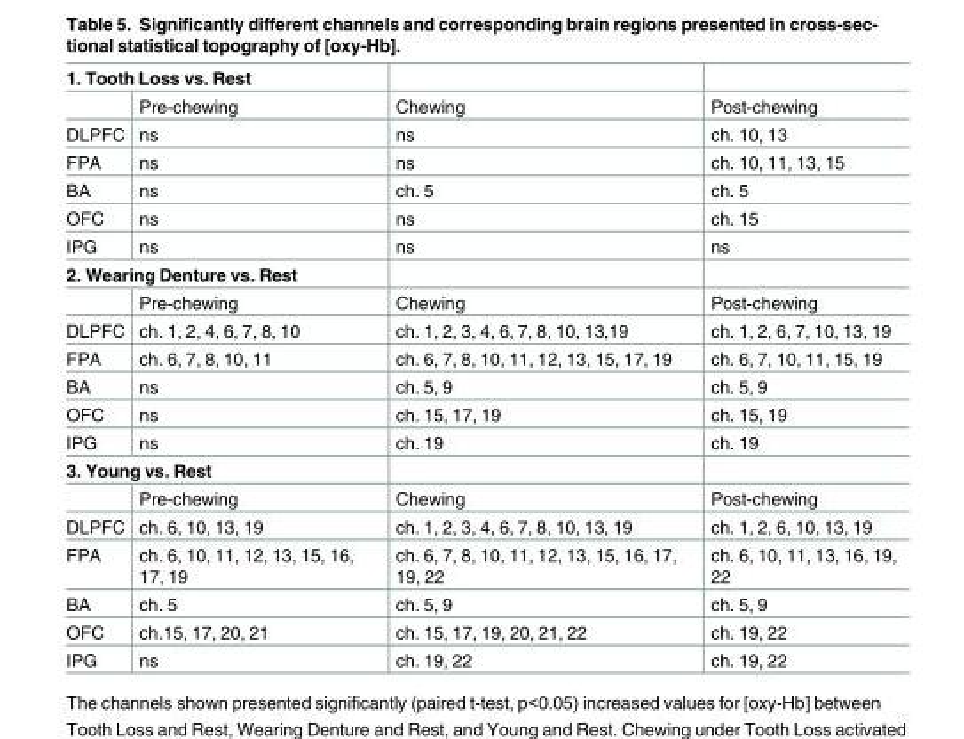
<table><tbody><tr><td colspan="4">1. Tooth Loss vs. Rest</td></tr><tr><td></td><td>Pre-chewing</td><td>Chewing</td><td>Post-chewing</td></tr><tr><td>DLPFC</td><td>ns</td><td>ns</td><td>ch. 10, 13</td></tr><tr><td>FPA</td><td>ns</td><td>ns</td><td>ch. 10, 11, 13, 15</td></tr><tr><td>BA</td><td>ns</td><td>ch. 5</td><td>ch. 5</td></tr><tr><td>OFC</td><td>ns</td><td>ns</td><td>ch. 15</td></tr><tr><td>IPG</td><td>ns</td><td>ns</td><td>ns</td></tr><tr><td colspan="4">2. Wearing Denture vs. Rest</td></tr><tr><td></td><td>Pre-chewing</td><td>Chewing</td><td>Post-chewing</td></tr><tr><td>DLPFC</td><td>ch. 1, 2, 4, 6, 7, 8, 10</td><td>ch. 1, 2, 3, 4, 6, 7, 8, 10, 13,19</td><td>ch. 1, 2, 6, 7, 10, 13, 19</td></tr><tr><td>FPA</td><td>ch. 6, 7, 8, 10, 11</td><td>ch. 6, 7, 8, 10, 11, 12, 13, 15, 17, 19</td><td>ch. 6, 7, 10, 11, 15, 19</td></tr><tr><td>BA</td><td>ns</td><td>ch. 5, 9</td><td>ch. 5, 9</td></tr><tr><td>OFC</td><td>ns</td><td>ch. 15, 17, 19</td><td>ch. 15, 19</td></tr><tr><td>IPG</td><td>ns</td><td>ch. 19</td><td>ch. 19</td></tr><tr><td colspan="4">3. Young vs. Rest</td></tr><tr><td></td><td>Pre-chewing</td><td>Chewing</td><td>Post-chewing</td></tr><tr><td>DLPFC</td><td>ch. 6, 10, 13, 19</td><td>ch. 1, 2, 3, 4, 6, 7, 8, 10, 13, 19</td><td>ch. 1, 2, 6, 10, 13, 19</td></tr><tr><td>FPA</td><td>ch. 6, 10, 11, 12, 13, 15, 16, 17, 19</td><td>ch. 6, 7, 8, 10, 11, 12, 13, 15, 16, 17, 19, 22</td><td>ch. 6, 10, 11, 13, 16, 19, 22</td></tr><tr><td>BA</td><td>ch. 5</td><td>ch. 5, 9</td><td>ch. 5, 9</td></tr><tr><td>OFC</td><td>ch.15, 17, 20, 21</td><td>ch. 15, 17, 19, 20, 21, 22</td><td>ch. 19, 22</td></tr><tr><td>IPG</td><td>ns</td><td>ch. 19, 22</td><td>ch. 19, 22</td></tr></tbody></table>